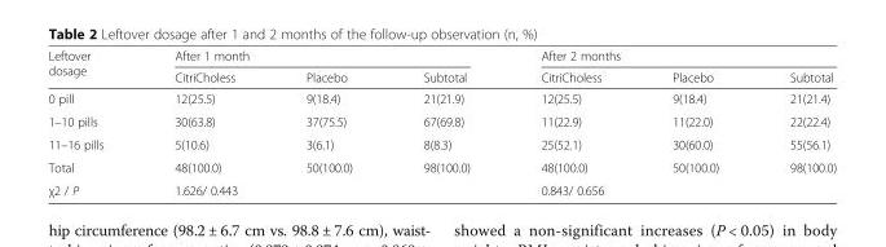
<table><thead><tr><td rowspan="2">Leftover dosage</td><td colspan="3">After 1 month</td><td colspan="3">After 2 months</td></tr><tr><td>CitriCholess</td><td>Placebo</td><td>Subtotal</td><td>CitriCholess</td><td>Placebo</td><td>Subtotal</td></tr></thead><tbody><tr><td>0 pill</td><td>12(25.5)</td><td>9(18.4)</td><td>21(21.9)</td><td>12(25.5)</td><td>9(18.4)</td><td>21(21.4)</td></tr><tr><td>1–10 pills</td><td>30(63.8)</td><td>37(75.5)</td><td>67(69.8)</td><td>11(22.9)</td><td>11(22.0)</td><td>22(22.4)</td></tr><tr><td>11–16 pills</td><td>5(10.6)</td><td>3(6.1)</td><td>8(8.3)</td><td>25(52.1)</td><td>30(60.0)</td><td>55(56.1)</td></tr><tr><td>Total</td><td>48(100.0)</td><td>50(100.0)</td><td>98(100.0)</td><td>48(100.0)</td><td>50(100.0)</td><td>98(100.0)</td></tr><tr><td>χ2 / P</td><td colspan="3">1.626/ 0.443</td><td colspan="3">0.843/ 0.656</td></tr></tbody></table>